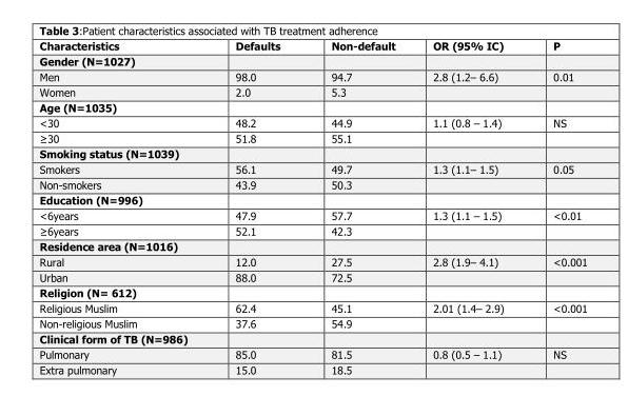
<table><thead><tr><td>Characteristics</td><td>Defaults</td><td>Non-default</td><td>OR (95% IC)</td><td>P</td></tr></thead><tbody><tr><td colspan="5">Gender (N=1027)</td></tr><tr><td>Men</td><td>98.0</td><td>94.7</td><td>2.8 (1.2– 6.6)</td><td>0.01</td></tr><tr><td>Women</td><td>2.0</td><td>5.3</td><td></td><td></td></tr><tr><td colspan="5">Age (N=1035)</td></tr><tr><td>&lt;30</td><td>48.2</td><td>44.9</td><td>1.1 (0.8 – 1.4)</td><td>NS</td></tr><tr><td>≥30</td><td>51.8</td><td>55.1</td><td></td><td></td></tr><tr><td colspan="5">Smoking status (N=1039)</td></tr><tr><td>Smokers</td><td>56.1</td><td>49.7</td><td>1.3 (1.1– 1.5)</td><td>0.05</td></tr><tr><td>Non-smokers</td><td>43.9</td><td>50.3</td><td></td><td></td></tr><tr><td colspan="5">Education (N=996)</td></tr><tr><td>&lt;6years</td><td>47.9</td><td>57.7</td><td>1.3 (1.1 – 1.5)</td><td>&lt;0.01</td></tr><tr><td>≥6years</td><td>52.1</td><td>42.3</td><td></td><td></td></tr><tr><td colspan="5">Residence area (N=1016)</td></tr><tr><td>Rural</td><td>12.0</td><td>27.5</td><td>2.8 (1.9– 4.1)</td><td>&lt;0.001</td></tr><tr><td>Urban</td><td>88.0</td><td>72.5</td><td></td><td></td></tr><tr><td colspan="5">Religion (N= 612)</td></tr><tr><td>Religious Muslim</td><td>62.4</td><td>45.1</td><td>2.01 (1.4– 2.9)</td><td>&lt;0.001</td></tr><tr><td>Non-religious Muslim</td><td>37.6</td><td>54.9</td><td></td><td></td></tr><tr><td colspan="5">Clinical form of TB (N=986)</td></tr><tr><td>Pulmonary</td><td>85.0</td><td>81.5</td><td>0.8 (0.5 – 1.1)</td><td>NS</td></tr><tr><td>Extra pulmonary</td><td>15.0</td><td>18.5</td><td></td><td></td></tr></tbody></table>